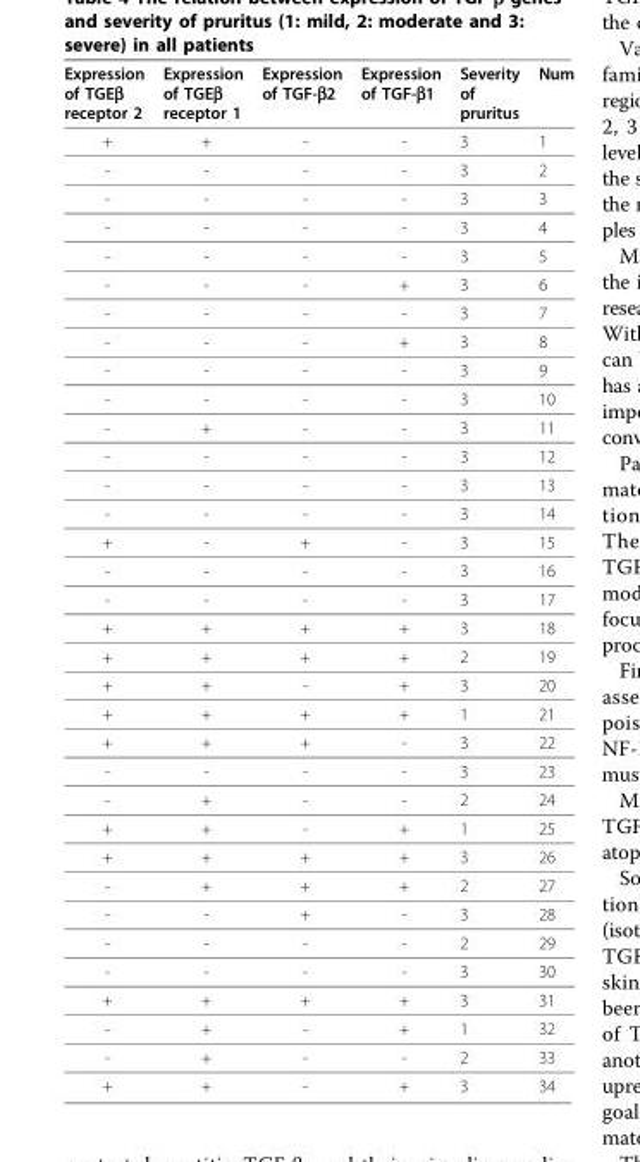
<table><thead><tr><td>Expression of TGEβ receptor 2</td><td>Expression of TGEβ receptor 1</td><td>Expression of TGF-β2</td><td>Expression of TGF-β1</td><td>Severity of pruritus</td><td>Num</td></tr></thead><tbody><tr><td>+</td><td>+</td><td>-</td><td>-</td><td>3</td><td>1</td></tr><tr><td>-</td><td>-</td><td>-</td><td>-</td><td>3</td><td>2</td></tr><tr><td>-</td><td>-</td><td>-</td><td>-</td><td>3</td><td>3</td></tr><tr><td>-</td><td>-</td><td>-</td><td>-</td><td>3</td><td>4</td></tr><tr><td>-</td><td>-</td><td>-</td><td>-</td><td>3</td><td>5</td></tr><tr><td>-</td><td>-</td><td>-</td><td>+</td><td>3</td><td>6</td></tr><tr><td>-</td><td>-</td><td>-</td><td>-</td><td>3</td><td>7</td></tr><tr><td>-</td><td>-</td><td>-</td><td>+</td><td>3</td><td>8</td></tr><tr><td>-</td><td>-</td><td>-</td><td>-</td><td>3</td><td>9</td></tr><tr><td>-</td><td>-</td><td>-</td><td>-</td><td>3</td><td>10</td></tr><tr><td>-</td><td>+</td><td>-</td><td>-</td><td>3</td><td>11</td></tr><tr><td>-</td><td>-</td><td>-</td><td>-</td><td>3</td><td>12</td></tr><tr><td>-</td><td>-</td><td>-</td><td>-</td><td>3</td><td>13</td></tr><tr><td>-</td><td>-</td><td>-</td><td>-</td><td>3</td><td>14</td></tr><tr><td>+</td><td>-</td><td>+</td><td>-</td><td>3</td><td>15</td></tr><tr><td>-</td><td>-</td><td>-</td><td>-</td><td>3</td><td>16</td></tr><tr><td>-</td><td>-</td><td>-</td><td>-</td><td>3</td><td>17</td></tr><tr><td>+</td><td>+</td><td>+</td><td>+</td><td>3</td><td>18</td></tr><tr><td>+</td><td>+</td><td>+</td><td>+</td><td>2</td><td>19</td></tr><tr><td>+</td><td>+</td><td>-</td><td>+</td><td>3</td><td>20</td></tr><tr><td>+</td><td>+</td><td>+</td><td>+</td><td>1</td><td>21</td></tr><tr><td>+</td><td>+</td><td>+</td><td>-</td><td>3</td><td>22</td></tr><tr><td>-</td><td>-</td><td>-</td><td>-</td><td>3</td><td>23</td></tr><tr><td>-</td><td>+</td><td>-</td><td>-</td><td>2</td><td>24</td></tr><tr><td>+</td><td>+</td><td>-</td><td>+</td><td>1</td><td>25</td></tr><tr><td>+</td><td>+</td><td>+</td><td>+</td><td>3</td><td>26</td></tr><tr><td>-</td><td>+</td><td>+</td><td>+</td><td>2</td><td>27</td></tr><tr><td>-</td><td>-</td><td>+</td><td>-</td><td>3</td><td>28</td></tr><tr><td>-</td><td>-</td><td>-</td><td>-</td><td>2</td><td>29</td></tr><tr><td>-</td><td>-</td><td>-</td><td>-</td><td>3</td><td>30</td></tr><tr><td>+</td><td>+</td><td>+</td><td>+</td><td>3</td><td>31</td></tr><tr><td>-</td><td>+</td><td>-</td><td>+</td><td>1</td><td>32</td></tr><tr><td>-</td><td>+</td><td>-</td><td>-</td><td>2</td><td>33</td></tr><tr><td>+</td><td>+</td><td>-</td><td>+</td><td>3</td><td>34</td></tr></tbody></table>